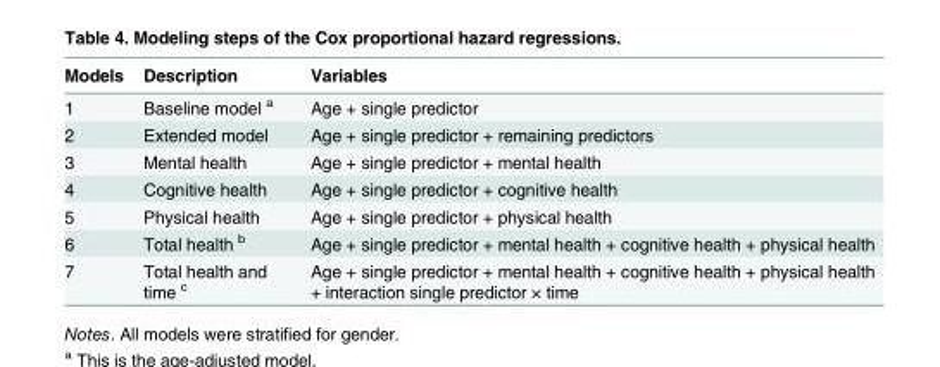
<table><thead><tr><td>Models</td><td>Description</td><td>Variables</td></tr></thead><tbody><tr><td>1</td><td>Baseline model <sup>a</sup></td><td>Age + single predictor</td></tr><tr><td>2</td><td>Extended model</td><td>Age + single predictor + remaining predictors</td></tr><tr><td>3</td><td>Mental health</td><td>Age + single predictor + mental health</td></tr><tr><td>4</td><td>Cognitive health</td><td>Age + single predictor + cognitive health</td></tr><tr><td>5</td><td>Physical health</td><td>Age + single predictor + physical health</td></tr><tr><td>6</td><td>Total health <sup>b</sup></td><td>Age + single predictor + mental health + cognitive health + physical health</td></tr><tr><td>7</td><td>Total health and time <sup>c</sup></td><td>Age + single predictor + mental health + cognitive health + physical health + interaction single predictor × time</td></tr></tbody></table>